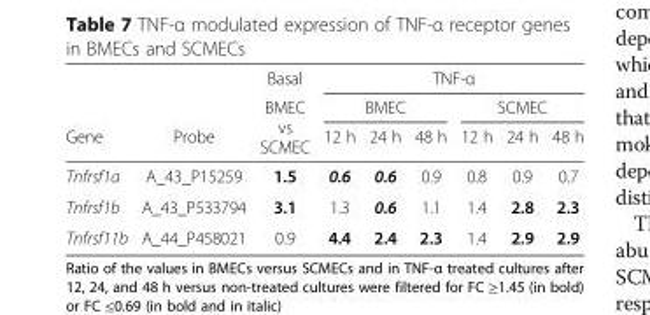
<table><thead><tr><td rowspan="3">Gene</td><td rowspan="3">Probe</td><td rowspan="3">Basal BMEC vs SCMEC</td><td colspan="6">TNF-α</td></tr><tr><td colspan="3">BMEC</td><td colspan="3">SCMEC</td></tr><tr><td>12 h</td><td>24 h</td><td>48 h</td><td>12 h</td><td>24 h</td><td>48 h</td></tr></thead><tbody><tr><td>Tnfrsf1a</td><td>A_43_P15259</td><td>1.5</td><td>0.6</td><td>0.6</td><td>0.9</td><td>0.8</td><td>0.9</td><td>0.7</td></tr><tr><td>Tnfrsf1b</td><td>A_43_P533794</td><td>3.1</td><td>1.3</td><td>0.6</td><td>1.1</td><td>1.4</td><td>2.8</td><td>2.3</td></tr><tr><td>Tnfrsf11b</td><td>A_44_P458021</td><td>0.9</td><td>4.4</td><td>2.4</td><td>2.3</td><td>1.4</td><td>2.9</td><td>2.9</td></tr></tbody></table>